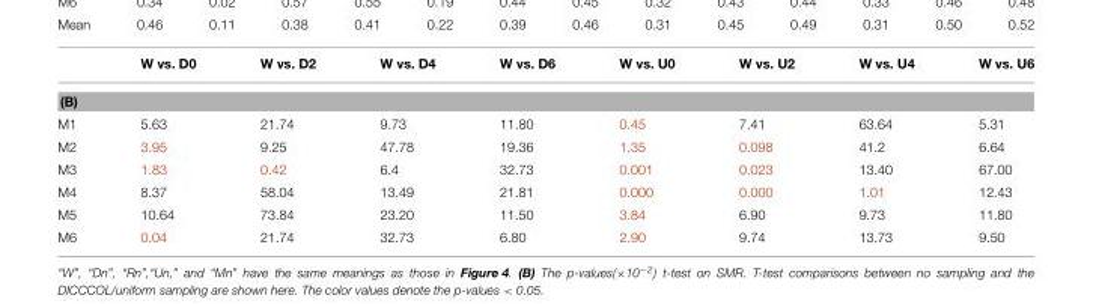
<table><thead><tr><td></td><td>W vs. D0</td><td>W vs. D2</td><td>W vs. D4</td><td>W vs. D6</td><td>W vs. U0</td><td>W vs. U2</td><td>W vs. U4</td><td>W vs. U6</td></tr></thead><tbody><tr><td colspan="9">(B)</td></tr><tr><td>M1</td><td>5.63</td><td>21.74</td><td>9.73</td><td>11.80</td><td>0.45</td><td>7.41</td><td>63.64</td><td>5.31</td></tr><tr><td>M2</td><td>3.95</td><td>9.25</td><td>47.78</td><td>19.36</td><td>1.35</td><td>0.098</td><td>41.2</td><td>6.64</td></tr><tr><td>M3</td><td>1.83</td><td>0.42</td><td>6.4</td><td>32.73</td><td>0.001</td><td>0.023</td><td>13.40</td><td>67.00</td></tr><tr><td>M4</td><td>8.37</td><td>58.04</td><td>13.49</td><td>21.81</td><td>0.000</td><td>0.000</td><td>1.01</td><td>12.43</td></tr><tr><td>M5</td><td>10.64</td><td>73.84</td><td>23.20</td><td>11.50</td><td>3.84</td><td>6.90</td><td>9.73</td><td>11.80</td></tr><tr><td>M6</td><td>0.04</td><td>21.74</td><td>32.73</td><td>6.80</td><td>2.90</td><td>9.74</td><td>13.73</td><td>9.50</td></tr></tbody></table>